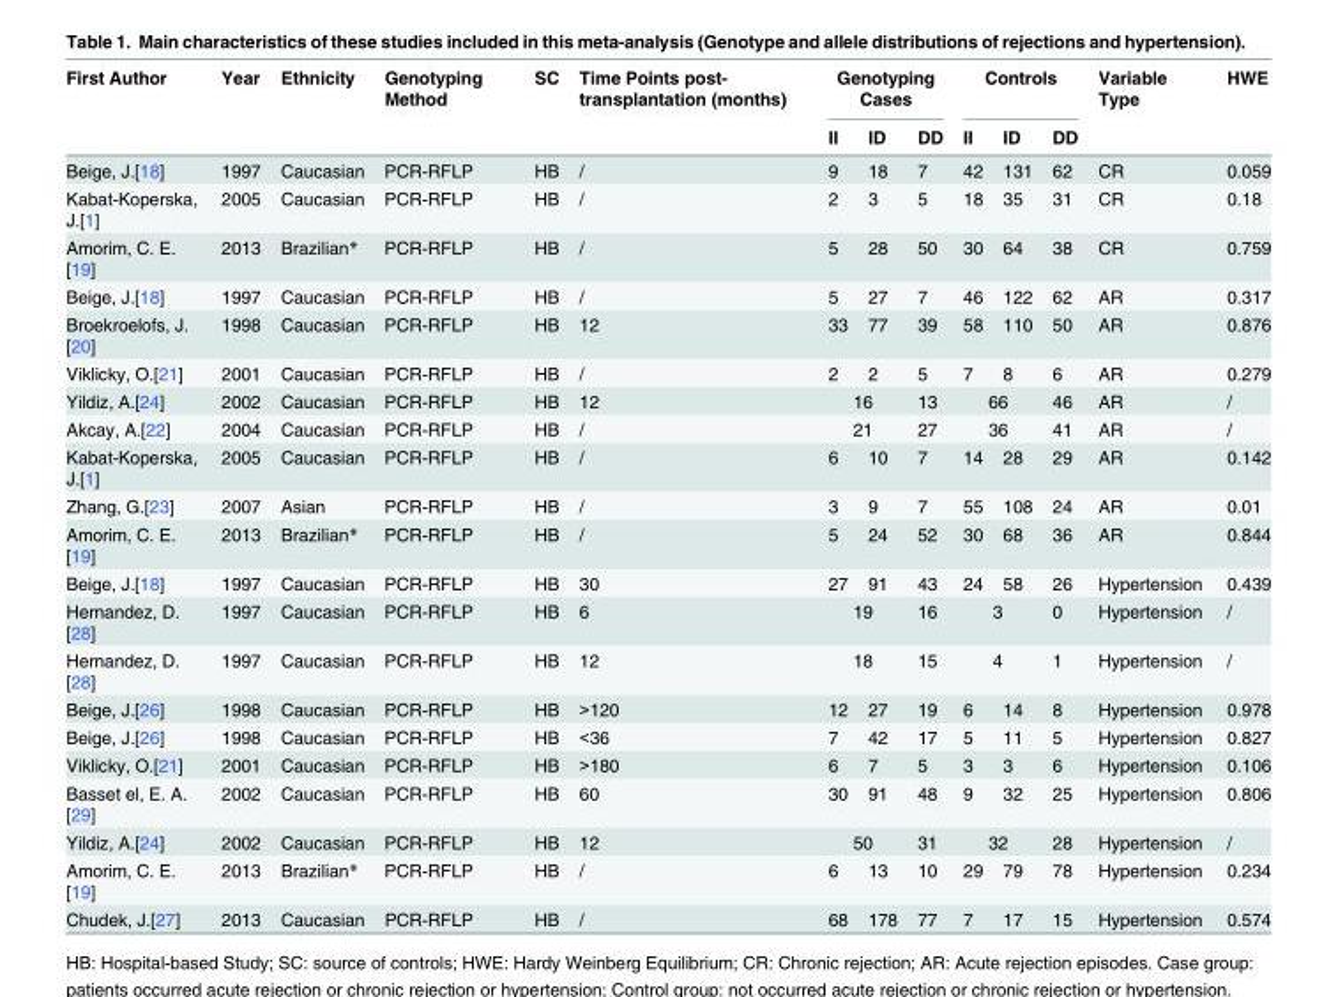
<table><thead><tr><td rowspan="2">First Author</td><td rowspan="2">Year</td><td rowspan="2">Ethnicity</td><td rowspan="2">Genotyping Method</td><td rowspan="2">SC</td><td rowspan="2">Time Points post- transplantation (months)</td><td colspan="3">Genotyping Cases</td><td colspan="3">Controls</td><td rowspan="2">Variable Type</td><td rowspan="2">HWE</td></tr><tr><td>II</td><td>ID</td><td>DD</td><td>II</td><td>ID</td><td>DD</td></tr></thead><tbody><tr><td>Beige, J.[18]</td><td>1997</td><td>Caucasian</td><td>PCR-RFLP</td><td>HB</td><td>/</td><td>9</td><td>18</td><td>7</td><td>42</td><td>131</td><td>62</td><td>CR</td><td>0.059</td></tr><tr><td>Kabat-Koperska, J.[1]</td><td>2005</td><td>Caucasian</td><td>PCR-RFLP</td><td>HB</td><td>/</td><td>2</td><td>3</td><td>5</td><td>18</td><td>35</td><td>31</td><td>CR</td><td>0.18</td></tr><tr><td>Amorim, C. E. [19]</td><td>2013</td><td>Brazilian*</td><td>PCR-RFLP</td><td>HB</td><td>/</td><td>5</td><td>28</td><td>50</td><td>30</td><td>64</td><td>38</td><td>CR</td><td>0.759</td></tr><tr><td>Beige, J.[18]</td><td>1997</td><td>Caucasian</td><td>PCR-RFLP</td><td>HB</td><td>/</td><td>5</td><td>27</td><td>7</td><td>46</td><td>122</td><td>62</td><td>AR</td><td>0.317</td></tr><tr><td>Broekroelofs, J. [20]</td><td>1998</td><td>Caucasian</td><td>PCR-RFLP</td><td>HB</td><td>12</td><td>33</td><td>77</td><td>39</td><td>58</td><td>110</td><td>50</td><td>AR</td><td>0.876</td></tr><tr><td>Viklicky, O.[21]</td><td>2001</td><td>Caucasian</td><td>PCR-RFLP</td><td>HB</td><td>/</td><td>2</td><td>2</td><td>5</td><td>7</td><td>8</td><td>6</td><td>AR</td><td>0.279</td></tr><tr><td>Yildiz, A.[24]</td><td>2002</td><td>Caucasian</td><td>PCR-RFLP</td><td>HB</td><td>12</td><td colspan="2">16</td><td>13</td><td colspan="2">66</td><td>46</td><td>AR</td><td>/</td></tr><tr><td>Akcay, A.[22]</td><td>2004</td><td>Caucasian</td><td>PCR-RFLP</td><td>HB</td><td>/</td><td colspan="2">21</td><td>27</td><td colspan="2">36</td><td>41</td><td>AR</td><td>/</td></tr><tr><td>Kabat-Koperska, J.[1]</td><td>2005</td><td>Caucasian</td><td>PCR-RFLP</td><td>HB</td><td>/</td><td>6</td><td>10</td><td>7</td><td>14</td><td>28</td><td>29</td><td>AR</td><td>0.142</td></tr><tr><td>Zhang, G.[23]</td><td>2007</td><td>Asian</td><td>PCR-RFLP</td><td>HB</td><td>/</td><td>3</td><td>9</td><td>7</td><td>55</td><td>108</td><td>24</td><td>AR</td><td>0.01</td></tr><tr><td>Amorim, C. E. [19]</td><td>2013</td><td>Brazilian*</td><td>PCR-RFLP</td><td>HB</td><td>/</td><td>5</td><td>24</td><td>52</td><td>30</td><td>68</td><td>36</td><td>AR</td><td>0.844</td></tr><tr><td>Beige, J.[18]</td><td>1997</td><td>Caucasian</td><td>PCR-RFLP</td><td>HB</td><td>30</td><td>27</td><td>91</td><td>43</td><td>24</td><td>58</td><td>26</td><td>Hypertension</td><td>0.439</td></tr><tr><td>Hernandez, D. [28]</td><td>1997</td><td>Caucasian</td><td>PCR-RFLP</td><td>HB</td><td>6</td><td colspan="2">19</td><td>16</td><td colspan="2">3</td><td>0</td><td>Hypertension</td><td>/</td></tr><tr><td>Hernandez, D. [28]</td><td>1997</td><td>Caucasian</td><td>PCR-RFLP</td><td>HB</td><td>12</td><td colspan="2">18</td><td>15</td><td colspan="2">4</td><td>1</td><td>Hypertension</td><td>/</td></tr><tr><td>Beige, J.[26]</td><td>1998</td><td>Caucasian</td><td>PCR-RFLP</td><td>HB</td><td>&gt;120</td><td>12</td><td>27</td><td>19</td><td>6</td><td>14</td><td>8</td><td>Hypertension</td><td>0.978</td></tr><tr><td>Beige, J.[26]</td><td>1998</td><td>Caucasian</td><td>PCR-RFLP</td><td>HB</td><td>&lt;36</td><td>7</td><td>42</td><td>17</td><td>5</td><td>11</td><td>5</td><td>Hypertension</td><td>0.827</td></tr><tr><td>Viklicky, O.[21]</td><td>2001</td><td>Caucasian</td><td>PCR-RFLP</td><td>HB</td><td>&gt;180</td><td>6</td><td>7</td><td>5</td><td>3</td><td>3</td><td>6</td><td>Hypertension</td><td>0.106</td></tr><tr><td>Basset el, E. A. [29]</td><td>2002</td><td>Caucasian</td><td>PCR-RFLP</td><td>HB</td><td>60</td><td>30</td><td>91</td><td>48</td><td>9</td><td>32</td><td>25</td><td>Hypertension</td><td>0.806</td></tr><tr><td>Yildiz, A.[24]</td><td>2002</td><td>Caucasian</td><td>PCR-RFLP</td><td>HB</td><td>12</td><td colspan="2">50</td><td>31</td><td colspan="2">32</td><td>28</td><td>Hypertension</td><td>/</td></tr><tr><td>Amorim, C. E. [19]</td><td>2013</td><td>Brazilian*</td><td>PCR-RFLP</td><td>HB</td><td>/</td><td>6</td><td>13</td><td>10</td><td>29</td><td>79</td><td>78</td><td>Hypertension</td><td>0.234</td></tr><tr><td>Chudek, J.[27]</td><td>2013</td><td>Caucasian</td><td>PCR-RFLP</td><td>HB</td><td>/</td><td>68</td><td>178</td><td>77</td><td>7</td><td>17</td><td>15</td><td>Hypertension</td><td>0.574</td></tr></tbody></table>